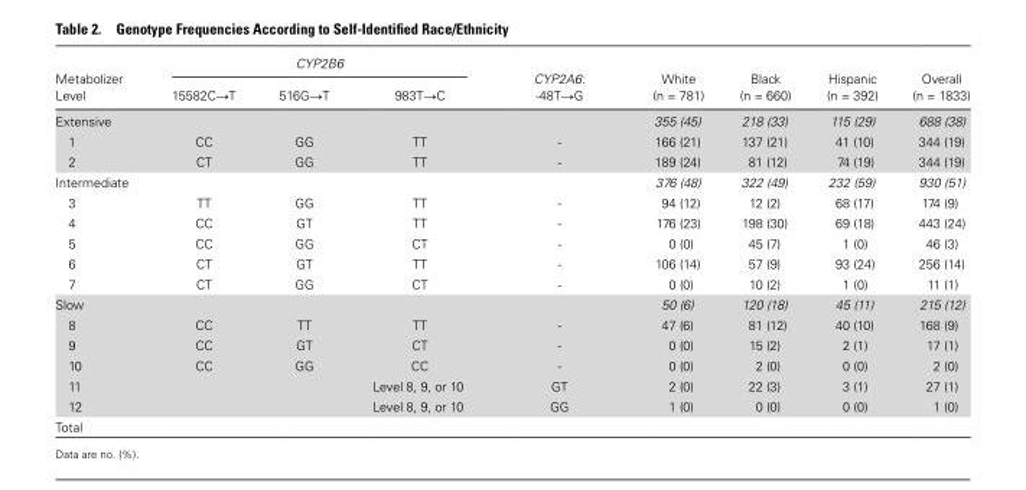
<table><tbody><tr><td rowspan="2">Metabolizer Level</td><td colspan="3">CYP2B6</td><td rowspan="2">CYP2A6: -48T→G</td><td rowspan="2">White (n = 781)</td><td rowspan="2">Black (n = 660)</td><td rowspan="2">Hispanic (n = 392)</td><td rowspan="2">Overall (n = 1833)</td></tr><tr><td>15582C→T</td><td>516G→T</td><td>983T→C</td></tr><tr><td>Extensive</td><td></td><td></td><td></td><td></td><td>355 (45)</td><td>218 (33)</td><td>115 (29)</td><td>688 (38)</td></tr><tr><td>1</td><td>CC</td><td>GG</td><td>TT</td><td>-</td><td>166 (21)</td><td>137 (21)</td><td>41 (10)</td><td>344 (19)</td></tr><tr><td>2</td><td>CT</td><td>GG</td><td>TT</td><td>-</td><td>189 (24)</td><td>81 (12)</td><td>74 (19)</td><td>344 (19)</td></tr><tr><td>Intermediate</td><td></td><td></td><td></td><td></td><td>376 (48)</td><td>322 (49)</td><td>232 (59)</td><td>930 (51)</td></tr><tr><td>3</td><td>TT</td><td>GG</td><td>TT</td><td>-</td><td>94 (12)</td><td>12 (2)</td><td>68 (17)</td><td>174 (9)</td></tr><tr><td>4</td><td>CC</td><td>GT</td><td>TT</td><td>-</td><td>176 (23)</td><td>198 (30)</td><td>69 (18)</td><td>443 (24)</td></tr><tr><td>5</td><td>CC</td><td>GG</td><td>CT</td><td>-</td><td>0 (0)</td><td>45 (7)</td><td>1 (0)</td><td>46 (3)</td></tr><tr><td>6</td><td>CT</td><td>GT</td><td>TT</td><td>-</td><td>106 (14)</td><td>57 (9)</td><td>93 (24)</td><td>256 (14)</td></tr><tr><td>7</td><td>CT</td><td>GG</td><td>CT</td><td>-</td><td>0 (0)</td><td>10 (2)</td><td>1 (0)</td><td>11 (1)</td></tr><tr><td>Slow</td><td></td><td></td><td></td><td></td><td>50 (6)</td><td>120 (18)</td><td>45 (11)</td><td>215 (12)</td></tr><tr><td>8</td><td>CC</td><td>TT</td><td>TT</td><td>-</td><td>47 (6)</td><td>81 (12)</td><td>40 (10)</td><td>168 (9)</td></tr><tr><td>9</td><td>CC</td><td>GT</td><td>CT</td><td>-</td><td>0 (0)</td><td>15 (2)</td><td>2 (1)</td><td>17 (1)</td></tr><tr><td>10</td><td>CC</td><td>GG</td><td>CC</td><td>-</td><td>0 (0)</td><td>2 (0)</td><td>0 (0)</td><td>2 (0)</td></tr><tr><td>11</td><td></td><td></td><td>Level 8, 9, or 10</td><td>GT</td><td>2 (0)</td><td>22 (3)</td><td>3 (1)</td><td>27 (1)</td></tr><tr><td>12</td><td></td><td></td><td>Level 8, 9, or 10</td><td>GG</td><td>1 (0)</td><td>0 (0)</td><td>0 (0)</td><td>1 (0)</td></tr><tr><td>Total</td><td></td><td></td><td></td><td></td><td></td><td></td><td></td><td></td></tr></tbody></table>